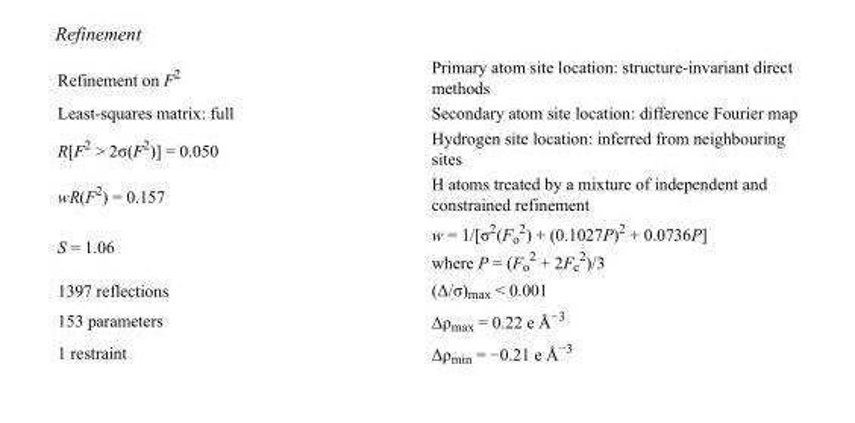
<table><tbody><tr><td>Refinement on F<sup>2</sup></td><td>Primary atom site location: structure-invariant direct methods</td></tr><tr><td>Least-squares matrix: full</td><td>Secondary atom site location: difference Fourier map</td></tr><tr><td>R[F<sup>2</sup> &gt; 2σ(F<sup>2</sup>)] = 0.050</td><td>Hydrogen site location: inferred from neighbouring sites</td></tr><tr><td>wR(F<sup>2</sup>) = 0.157</td><td>H atoms treated by a mixture of independent and constrained refinement</td></tr><tr><td>S = 1.06</td><td>w = 1/[σ<sup>2</sup>(F<sub>o</sub> <sup>2</sup>) + (0.1027P)<sup>2</sup> + 0.0736P] where P = (F<sub>o</sub> <sup>2</sup> + 2F<sub>c</sub> <sup>2</sup>)/3</td></tr><tr><td>1397 reflections</td><td>(Δ/σ)<sub>max</sub> &lt; 0.001</td></tr><tr><td>153 parameters</td><td>Δρ<sub>max</sub> = 0.22 e Å<sup>−3</sup></td></tr><tr><td>1 restraint</td><td>Δρ<sub>min</sub> = −0.21 e Å<sup>−3</sup></td></tr></tbody></table>